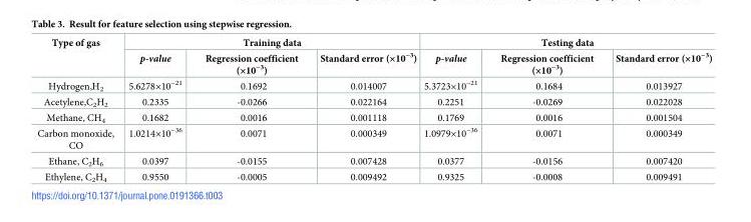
<table><thead><tr><td rowspan="2">Type of gas</td><td colspan="3">Training data</td><td colspan="3">Testing data</td></tr><tr><td>p-value</td><td>Regression coefficient (×10<sup>−3</sup>)</td><td>Standard error (×10<sup>−3</sup>)</td><td>p-value</td><td>Regression coefficient (×10<sup>−3</sup>)</td><td>Standard error (×10<sup>−3</sup>)</td></tr></thead><tbody><tr><td>Hydrogen,H<sub>2</sub></td><td>5.6278×10<sup>−21</sup></td><td>0.1692</td><td>0.014007</td><td>5.3723×10<sup>−21</sup></td><td>0.1684</td><td>0.013927</td></tr><tr><td>Acetylene,C<sub>2</sub>H<sub>2</sub></td><td>0.2335</td><td>-0.0266</td><td>0.022164</td><td>0.2251</td><td>-0.0269</td><td>0.022028</td></tr><tr><td>Methane, CH<sub>4</sub></td><td>0.1682</td><td>0.0016</td><td>0.001118</td><td>0.1769</td><td>0.0016</td><td>0.001504</td></tr><tr><td>Carbon monoxide, CO</td><td>1.0214×10<sup>−36</sup></td><td>0.0071</td><td>0.000349</td><td>1.0979×10<sup>−36</sup></td><td>0.0071</td><td>0.000349</td></tr><tr><td>Ethane, C<sub>2</sub>H<sub>6</sub></td><td>0.0397</td><td>-0.0155</td><td>0.007428</td><td>0.0377</td><td>-0.0156</td><td>0.007420</td></tr><tr><td>Ethylene, C<sub>2</sub>H<sub>4</sub></td><td>0.9550</td><td>-0.0005</td><td>0.009492</td><td>0.9325</td><td>-0.0008</td><td>0.009491</td></tr></tbody></table>